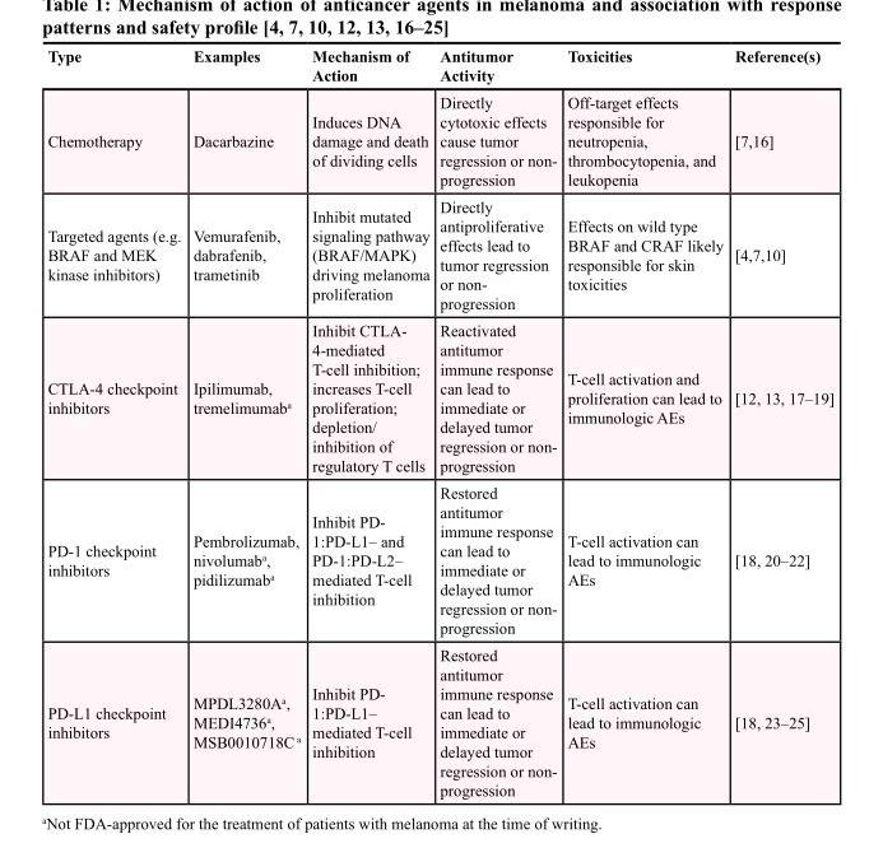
<table><thead><tr><td>Type</td><td>Examples</td><td>Mechanism of Action</td><td>Antitumor Activity</td><td>Toxicities</td><td>Reference(s)</td></tr></thead><tbody><tr><td>Chemotherapy</td><td>Dacarbazine</td><td>Induces DNA damage and death of dividing cells</td><td>Directly cytotoxic effects cause tumor regression or non- progression</td><td>Off-target effects responsible for neutropenia, thrombocytopenia, and leukopenia</td><td>[7,16]</td></tr><tr><td>Targeted agents (e.g. BRAF and MEK kinase inhibitors)</td><td>Vemurafenib, dabrafenib, trametinib</td><td>Inhibit mutated signaling pathway (BRAF/MAPK) driving melanoma proliferation</td><td>Directly antiproliferative effects lead to tumor regression or non- progression</td><td>Effects on wild type BRAF and CRAF likely responsible for skin toxicities</td><td>[4,7,10]</td></tr><tr><td>CTLA-4 checkpoint inhibitors</td><td>Ipilimumab, tremelimumab<sup>a</sup></td><td>Inhibit CTLA- 4-mediated T-cell inhibition; increases T-cell proliferation; depletion/ inhibition of regulatory T cells</td><td>Reactivated antitumor immune response can lead to immediate or delayed tumor regression or non- progression</td><td>T-cell activation and proliferation can lead to immunologic AEs</td><td>[12, 13, 17–19]</td></tr><tr><td>PD-1 checkpoint inhibitors</td><td>Pembrolizumab, nivolumab<sup>a</sup>, pidilizumab<sup>a</sup></td><td>Inhibit PD- 1:PD-L1– and PD-1:PD-L2– mediated T-cell inhibition</td><td>Restored antitumor immune response can lead to immediate or delayed tumor regression or non- progression</td><td>T-cell activation can lead to immunologic AEs</td><td>[18, 20–22]</td></tr><tr><td>PD-L1 checkpoint inhibitors</td><td>MPDL3280A<sup>a</sup>, MEDI4736<sup>a</sup>, MSB0010718C <sup>a</sup></td><td>Inhibit PD- 1:PD-L1– mediated T-cell inhibition</td><td>Restored antitumor immune response can lead to immediate or delayed tumor regression or non- progression</td><td>T-cell activation can lead to immunologic AEs</td><td>[18, 23–25]</td></tr></tbody></table>